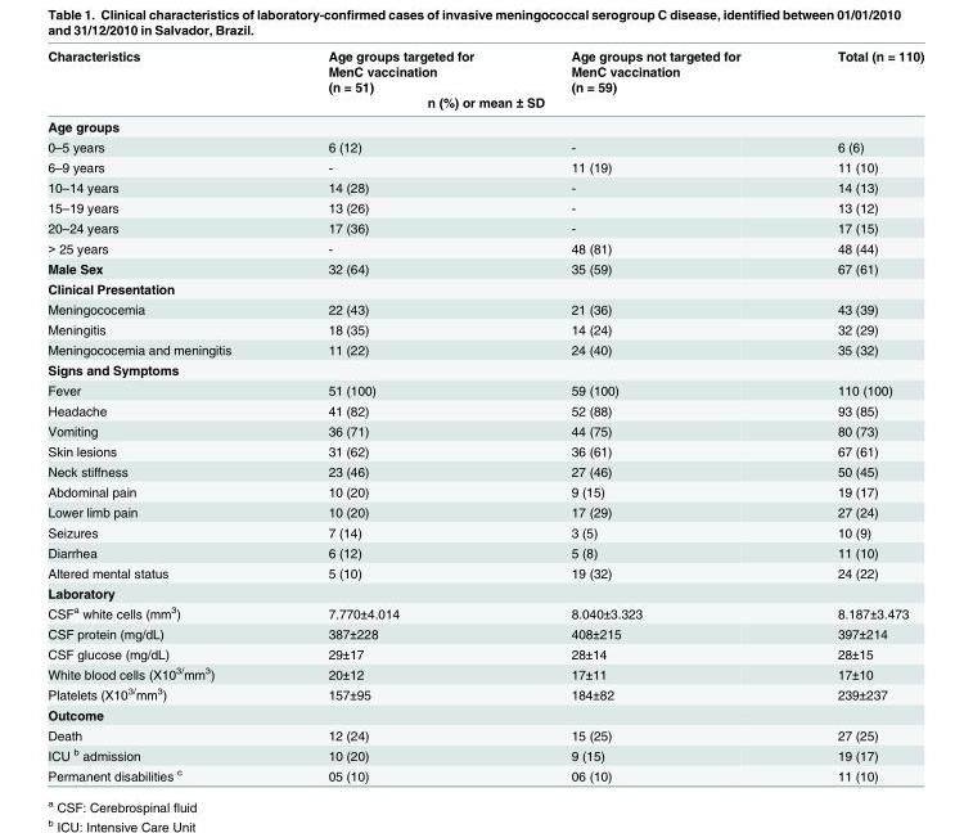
<table><thead><tr><td rowspan="2">Characteristics</td><td rowspan="2">Age groups targeted for MenC vaccination (n = 51)</td><td rowspan="2">Age groups not targeted for MenC vaccination (n = 59)</td><td rowspan="2">Total (n = 110)</td></tr><tr></tr><tr><td colspan="4">n (%) or mean ± SD</td></tr></thead><tbody><tr><td colspan="4">Age groups</td></tr><tr><td>0–5 years</td><td>6 (12)</td><td>-</td><td>6 (6)</td></tr><tr><td>6–9 years</td><td>-</td><td>11 (19)</td><td>11 (10)</td></tr><tr><td>10–14 years</td><td>14 (28)</td><td>-</td><td>14 (13)</td></tr><tr><td>15–19 years</td><td>13 (26)</td><td>-</td><td>13 (12)</td></tr><tr><td>20–24 years</td><td>17 (36)</td><td>-</td><td>17 (15)</td></tr><tr><td>&gt; 25 years</td><td>-</td><td>48 (81)</td><td>48 (44)</td></tr><tr><td>Male Sex</td><td>32 (64)</td><td>35 (59)</td><td>67 (61)</td></tr><tr><td colspan="4">Clinical Presentation</td></tr><tr><td>Meningococemia</td><td>22 (43)</td><td>21 (36)</td><td>43 (39)</td></tr><tr><td>Meningitis</td><td>18 (35)</td><td>14 (24)</td><td>32 (29)</td></tr><tr><td>Meningococemia and meningitis</td><td>11 (22)</td><td>24 (40)</td><td>35 (32)</td></tr><tr><td colspan="4">Signs and Symptoms</td></tr><tr><td>Fever</td><td>51 (100)</td><td>59 (100)</td><td>110 (100)</td></tr><tr><td>Headache</td><td>41 (82)</td><td>52 (88)</td><td>93 (85)</td></tr><tr><td>Vomiting</td><td>36 (71)</td><td>44 (75)</td><td>80 (73)</td></tr><tr><td>Skin lesions</td><td>31 (62)</td><td>36 (61)</td><td>67 (61)</td></tr><tr><td>Neck stiffness</td><td>23 (46)</td><td>27 (46)</td><td>50 (45)</td></tr><tr><td>Abdominal pain</td><td>10 (20)</td><td>9 (15)</td><td>19 (17)</td></tr><tr><td>Lower limb pain</td><td>10 (20)</td><td>17 (29)</td><td>27 (24)</td></tr><tr><td>Seizures</td><td>7 (14)</td><td>3 (5)</td><td>10 (9)</td></tr><tr><td>Diarrhea</td><td>6 (12)</td><td>5 (8)</td><td>11 (10)</td></tr><tr><td>Altered mental status</td><td>5 (10)</td><td>19 (32)</td><td>24 (22)</td></tr><tr><td colspan="4">Laboratory</td></tr><tr><td>CSF<sup>a</sup> white cells (mm<sup>3</sup>)</td><td>7.770±4.014</td><td>8.040±3.323</td><td>8.187±3.473</td></tr><tr><td>CSF protein (mg/dL)</td><td>387±228</td><td>408±215</td><td>397±214</td></tr><tr><td>CSF glucose (mg/dL)</td><td>29±17</td><td>28±14</td><td>28±15</td></tr><tr><td>White blood cells (X10<sup>3/</sup>mm<sup>3</sup>)</td><td>20±12</td><td>17±11</td><td>17±10</td></tr><tr><td>Platelets (X10<sup>3/</sup>mm<sup>3</sup>)</td><td>157±95</td><td>184±82</td><td>239±237</td></tr><tr><td colspan="4">Outcome</td></tr><tr><td>Death</td><td>12 (24)</td><td>15 (25)</td><td>27 (25)</td></tr><tr><td>ICU <sup>b</sup> admission</td><td>10 (20)</td><td>9 (15)</td><td>19 (17)</td></tr><tr><td>Permanent disabilities <sup>c</sup></td><td>05 (10)</td><td>06 (10)</td><td>11 (10)</td></tr></tbody></table>